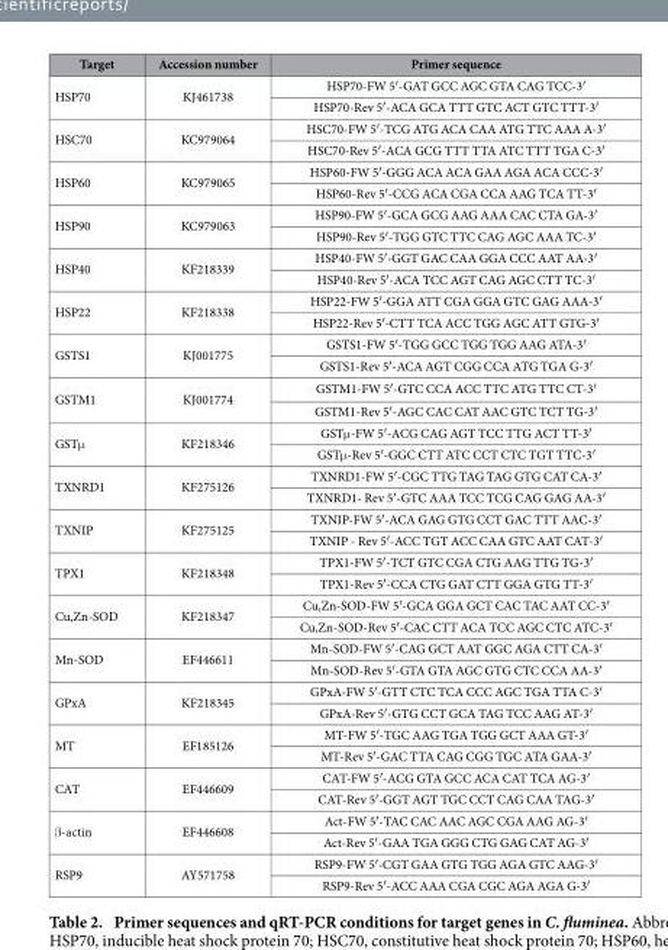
<table><thead><tr><td>Target</td><td>Accession number</td><td>Primer sequence</td></tr></thead><tbody><tr><td rowspan="2">HSP70</td><td rowspan="2">KJ461738</td><td>HSP70-FW 5′ -GAT GCC AGC GTA CAG TCC-3′</td></tr><tr><td>HSP70-Rev 5′ -ACA GCA TTT GTC ACT GTC TTT-3′</td></tr><tr><td rowspan="2">HSC70</td><td rowspan="2">KC979064</td><td>HSC70-FW 5′ -TCG ATG ACA CAA ATG TTC AAA A-3′</td></tr><tr><td>HSC70-Rev 5′ -ACA GCG TTT TTA ATC TTT TGA C-3′</td></tr><tr><td rowspan="2">HSP60</td><td rowspan="2">KC979065</td><td>HSP60-FW 5′ -GGG ACA ACA GAA AGA ACA CCC-3′</td></tr><tr><td>HSP60-Rev 5′ -CCG ACA CGA CCA AAG TCA TT-3′</td></tr><tr><td rowspan="2">HSP90</td><td rowspan="2">KC979063</td><td>HSP90-FW 5′ -GCA GCG AAG AAA CAC CTA GA-3′</td></tr><tr><td>HSP90-Rev 5′ -TGG GTC TTC CAG AGC AAA TC-3′</td></tr><tr><td rowspan="2">HSP40</td><td rowspan="2">KF218339</td><td>HSP40-FW 5′ -GGT GAC CAA GGA CCC AAT AA-3′</td></tr><tr><td>HSP40-Rev 5′ -ACA TCC AGT CAG AGC CTT TC-3′</td></tr><tr><td rowspan="2">HSP22</td><td rowspan="2">KF218338</td><td>HSP22-FW 5′ -GGA ATT CGA GGA GTC GAG AAA-3′</td></tr><tr><td>HSP22-Rev 5′ -CTT TCA ACC TGG AGC ATT GTG-3′</td></tr><tr><td rowspan="2">GSTS1</td><td rowspan="2">KJ001775</td><td>GSTS1-FW 5′ -TGG GCC TGG TGG AAG ATA-3′</td></tr><tr><td>GSTS1-Rev 5′ -ACA AGT CGG CCA ATG TGA G-3′</td></tr><tr><td rowspan="2">GSTM1</td><td rowspan="2">KJ001774</td><td>GSTM1-FW 5′ -GTC CCA ACC TTC ATG TTC CT-3′</td></tr><tr><td>GSTM1-Rev 5′ -AGC CAC CAT AAC GTC TCT TG-3′</td></tr><tr><td rowspan="2">GSTμ</td><td rowspan="2">KF218346</td><td>GSTμ -FW 5′ -ACG CAG AGT TCC TTG ACT TT-3′</td></tr><tr><td>GSTμ -Rev 5′ -GGC CTT ATC CCT CTC TGT TTC-3′</td></tr><tr><td rowspan="2">TXNRD1</td><td rowspan="2">KF275126</td><td>TXNRD1-FW 5′ -CGC TTG TAG TAG GTG CAT CA-3′</td></tr><tr><td>TXNRD1- Rev 5′ -GTC AAA TCC TCG CAG GAG AA-3′</td></tr><tr><td rowspan="2">TXNIP</td><td rowspan="2">KF275125</td><td>TXNIP-FW 5′ -ACA GAG GTG CCT GAC TTT AAC-3′</td></tr><tr><td>TXNIP - Rev 5′ -ACC TGT ACC CAA GTC AAT CAT-3′</td></tr><tr><td rowspan="2">TPX1</td><td rowspan="2">KF218348</td><td>TPX1-FW 5′ -TCT GTC CGA CTG AAG TTG TG-3′</td></tr><tr><td>TPX1-Rev 5′ -CCA CTG GAT CTT GGA GTG TT-3′</td></tr><tr><td rowspan="2">Cu,Zn-SOD</td><td rowspan="2">KF218347</td><td>Cu,Zn-SOD-FW 5′ -GCA GGA GCT CAC TAC AAT CC-3′</td></tr><tr><td>Cu,Zn-SOD-Rev 5′ -CAC CTT ACA TCC AGC CTC ATC-3′</td></tr><tr><td rowspan="2">Mn-SOD</td><td rowspan="2">EF446611</td><td>Mn-SOD-FW 5′ -CAG GCT AAT GGC AGA CTT CA-3′</td></tr><tr><td>Mn-SOD-Rev 5′ -GTA GTA AGC GTG CTC CCA AA-3′</td></tr><tr><td rowspan="2">GPxA</td><td rowspan="2">KF218345</td><td>GPxA-FW 5′ -GTT CTC TCA CCC AGC TGA TTA C-3′</td></tr><tr><td>GPxA-Rev 5′ -GTG CCT GCA TAG TCC AAG AT-3′</td></tr><tr><td rowspan="2">MT</td><td rowspan="2">EF185126</td><td>MT-FW 5′ -TGC AAG TGA TGG GCT AAA GT-3′</td></tr><tr><td>MT-Rev 5′ -GAC TTA CAG CGG TGC ATA GAA-3′</td></tr><tr><td rowspan="2">CAT</td><td rowspan="2">EF446609</td><td>CAT-FW 5′ -ACG GTA GCC ACA CAT TCA AG-3′</td></tr><tr><td>CAT-Rev 5′ -GGT AGT TGC CCT CAG CAA TAG-3′</td></tr><tr><td rowspan="2">β -actin</td><td rowspan="2">EF446608</td><td>Act-FW 5′ -TAC CAC AAC AGC CGA AAG AG-3′</td></tr><tr><td>Act-Rev 5′ -GAA TGA GGG CTG GAG CAT AG-3′</td></tr><tr><td rowspan="2">RSP9</td><td rowspan="2">AY571758</td><td>RSP9-FW 5′ -CGT GAA GTG TGG AGA GTC AAG-3′</td></tr><tr><td>RSP9-Rev 5′ -ACC AAA CGA CGC AGA AGA G-3′</td></tr></tbody></table>